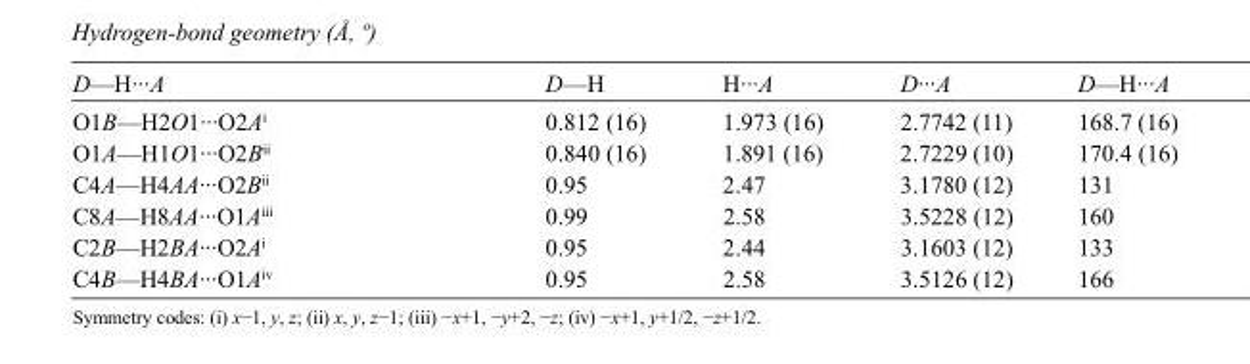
<table><tbody><tr><td>D—H···A</td><td>D—H</td><td>H···A</td><td>D···A</td><td>D—H···A</td></tr><tr><td>O1B—H2O1···O2A<sup>i</sup></td><td>0.812 (16)</td><td>1.973 (16)</td><td>2.7742 (11)</td><td>168.7 (16)</td></tr><tr><td>O1A—H1O1···O2B<sup>ii</sup></td><td>0.840 (16)</td><td>1.891 (16)</td><td>2.7229 (10)</td><td>170.4 (16)</td></tr><tr><td>C4A—H4AA···O2B<sup>ii</sup></td><td>0.95</td><td>2.47</td><td>3.1780 (12)</td><td>131</td></tr><tr><td>C8A—H8AA···O1A<sup>iii</sup></td><td>0.99</td><td>2.58</td><td>3.5228 (12)</td><td>160</td></tr><tr><td>C2B—H2BA···O2A<sup>i</sup></td><td>0.95</td><td>2.44</td><td>3.1603 (12)</td><td>133</td></tr><tr><td>C4B—H4BA···O1A<sup>iv</sup></td><td>0.95</td><td>2.58</td><td>3.5126 (12)</td><td>166</td></tr></tbody></table>